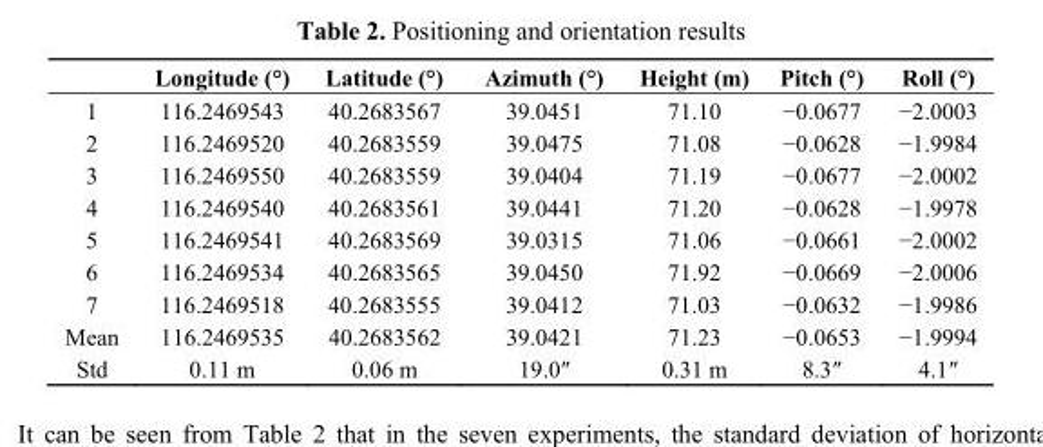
<table><thead><tr><td></td><td>Longitude (°)</td><td>Latitude (°)</td><td>Azimuth (°)</td><td>Height (m)</td><td>Pitch (°)</td><td>Roll (°)</td></tr></thead><tbody><tr><td>1</td><td>116.2469543</td><td>40.2683567</td><td>39.0451</td><td>71.10</td><td>−0.0677</td><td>−2.0003</td></tr><tr><td>2</td><td>116.2469520</td><td>40.2683559</td><td>39.0475</td><td>71.08</td><td>−0.0628</td><td>−1.9984</td></tr><tr><td>3</td><td>116.2469550</td><td>40.2683559</td><td>39.0404</td><td>71.19</td><td>−0.0677</td><td>−2.0002</td></tr><tr><td>4</td><td>116.2469540</td><td>40.2683561</td><td>39.0441</td><td>71.20</td><td>−0.0628</td><td>−1.9978</td></tr><tr><td>5</td><td>116.2469541</td><td>40.2683569</td><td>39.0315</td><td>71.06</td><td>−0.0661</td><td>−2.0002</td></tr><tr><td>6</td><td>116.2469534</td><td>40.2683565</td><td>39.0450</td><td>71.92</td><td>−0.0669</td><td>−2.0006</td></tr><tr><td>7</td><td>116.2469518</td><td>40.2683555</td><td>39.0412</td><td>71.03</td><td>−0.0632</td><td>−1.9986</td></tr><tr><td>Mean</td><td>116.2469535</td><td>40.2683562</td><td>39.0421</td><td>71.23</td><td>−0.0653</td><td>−1.9994</td></tr><tr><td>Std</td><td>0.11 m</td><td>0.06 m</td><td>19.0″</td><td>0.31 m</td><td>8.3″</td><td>4.1″</td></tr></tbody></table>